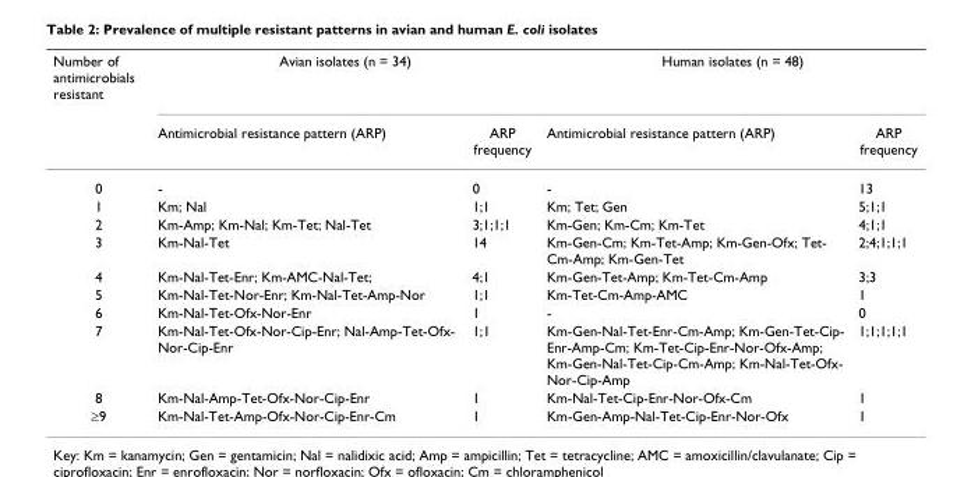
<table><thead><tr><td rowspan="2">Number of antimicrobials resistant</td><td colspan="2">Avian isolates (n = 34)</td><td colspan="2">Human isolates (n = 48)</td></tr><tr><td>Antimicrobial resistance pattern (ARP)</td><td>ARP frequency</td><td>Antimicrobial resistance pattern (ARP)</td><td>ARP frequency</td></tr></thead><tbody><tr><td>0</td><td>-</td><td>0</td><td>-</td><td>13</td></tr><tr><td>1</td><td>Km; Nal</td><td>1;1</td><td>Km; Tet; Gen</td><td>5;1;1</td></tr><tr><td>2</td><td>Km-Amp; Km-Nal; Km-Tet; Nal-Tet</td><td>3;1;1;1</td><td>Km-Gen; Km-Cm; Km-Tet</td><td>4;1;1</td></tr><tr><td>3</td><td>Km-Nal-Tet</td><td>14</td><td>Km-Gen-Cm; Km-Tet-Amp; Km-Gen-Ofx; Tet- Cm-Amp; Km-Gen-Tet</td><td>2;4;1;1;1</td></tr><tr><td>4</td><td>Km-Nal-Tet-Enr; Km-AMC-Nal-Tet;</td><td>4;1</td><td>Km-Gen-Tet-Amp; Km-Tet-Cm-Amp</td><td>3;3</td></tr><tr><td>5</td><td>Km-Nal-Tet-Nor-Enr; Km-Nal-Tet-Amp-Nor</td><td>1;1</td><td>Km-Tet-Cm-Amp-AMC</td><td>1</td></tr><tr><td>6</td><td>Km-Nal-Tet-Ofx-Nor-Enr</td><td>1</td><td>-</td><td>0</td></tr><tr><td>7</td><td>Km-Nal-Tet-Ofx-Nor-Cip-Enr; Nal-Amp-Tet-Ofx- Nor-Cip-Enr</td><td>1;1</td><td>Km-Gen-Nal-Tet-Enr-Cm-Amp; Km-Gen-Tet-Cip- Enr-Amp-Cm; Km-Tet-Cip-Enr-Nor-Ofx-Amp; Km-Gen-Nal-Tet-Cip-Cm-Amp; Km-Nal-Tet-Ofx- Nor-Cip-Amp</td><td>1;1;1;1;1</td></tr><tr><td>8</td><td>Km-Nal-Amp-Tet-Ofx-Nor-Cip-Enr</td><td>1</td><td>Km-Nal-Tet-Cip-Enr-Nor-Ofx-Cm</td><td>1</td></tr><tr><td>≥9</td><td>Km-Nal-Tet-Amp-Ofx-Nor-Cip-Enr-Cm</td><td>1</td><td>Km-Gen-Amp-Nal-Tet-Cip-Enr-Nor-Ofx</td><td>1</td></tr></tbody></table>